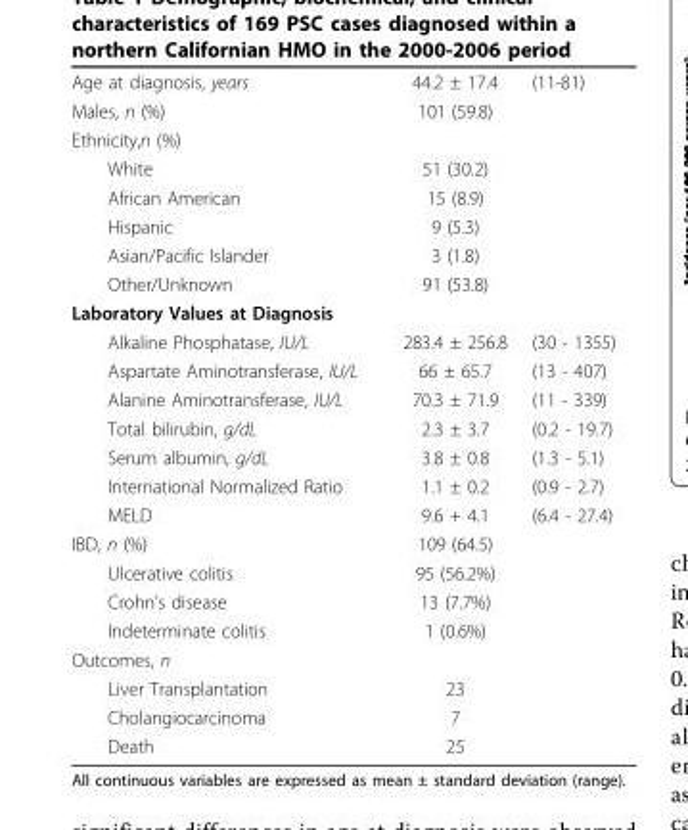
<table><tbody><tr><td>Age at diagnosis, years</td><td>44.2 ± 17.4</td><td>(11-81)</td></tr><tr><td>Males, n (%)</td><td>101 (59.8)</td><td></td></tr><tr><td colspan="3">Ethnicity,n (%)</td></tr><tr><td>White</td><td>51 (30.2)</td><td></td></tr><tr><td>African American</td><td>15 (8.9)</td><td></td></tr><tr><td>Hispanic</td><td>9 (5.3)</td><td></td></tr><tr><td>Asian/Pacific Islander</td><td>3 (1.8)</td><td></td></tr><tr><td>Other/Unknown</td><td>91 (53.8)</td><td></td></tr><tr><td colspan="3">Laboratory Values at Diagnosis</td></tr><tr><td>Alkaline Phosphatase, IU/L</td><td>283.4 ± 256.8</td><td>(30 - 1355)</td></tr><tr><td>Aspartate Aminotransferase, IU/L</td><td>66 ± 65.7</td><td>(13 - 407)</td></tr><tr><td>Alanine Aminotransferase, IU/L</td><td>70.3 ± 71.9</td><td>(11 - 339)</td></tr><tr><td>Total bilirubin, g/dL</td><td>2.3 ± 3.7</td><td>(0.2 - 19.7)</td></tr><tr><td>Serum albumin, g/dL</td><td>3.8 ± 0.8</td><td>(1.3 - 5.1)</td></tr><tr><td>International Normalized Ratio</td><td>1.1 ± 0.2</td><td>(0.9 - 2.7)</td></tr><tr><td>MELD</td><td>9.6 + 4.1</td><td>(6.4 - 27.4)</td></tr><tr><td>IBD, n (%)</td><td>109 (64.5)</td><td></td></tr><tr><td>Ulcerative colitis</td><td>95 (56.2%)</td><td></td></tr><tr><td>Crohn’s disease</td><td>13 (7.7%)</td><td></td></tr><tr><td>Indeterminate colitis</td><td>1 (0.6%)</td><td></td></tr><tr><td colspan="3">Outcomes, n</td></tr><tr><td>Liver Transplantation</td><td>23</td><td></td></tr><tr><td>Cholangiocarcinoma</td><td>7</td><td></td></tr><tr><td>Death</td><td>25</td><td></td></tr></tbody></table>